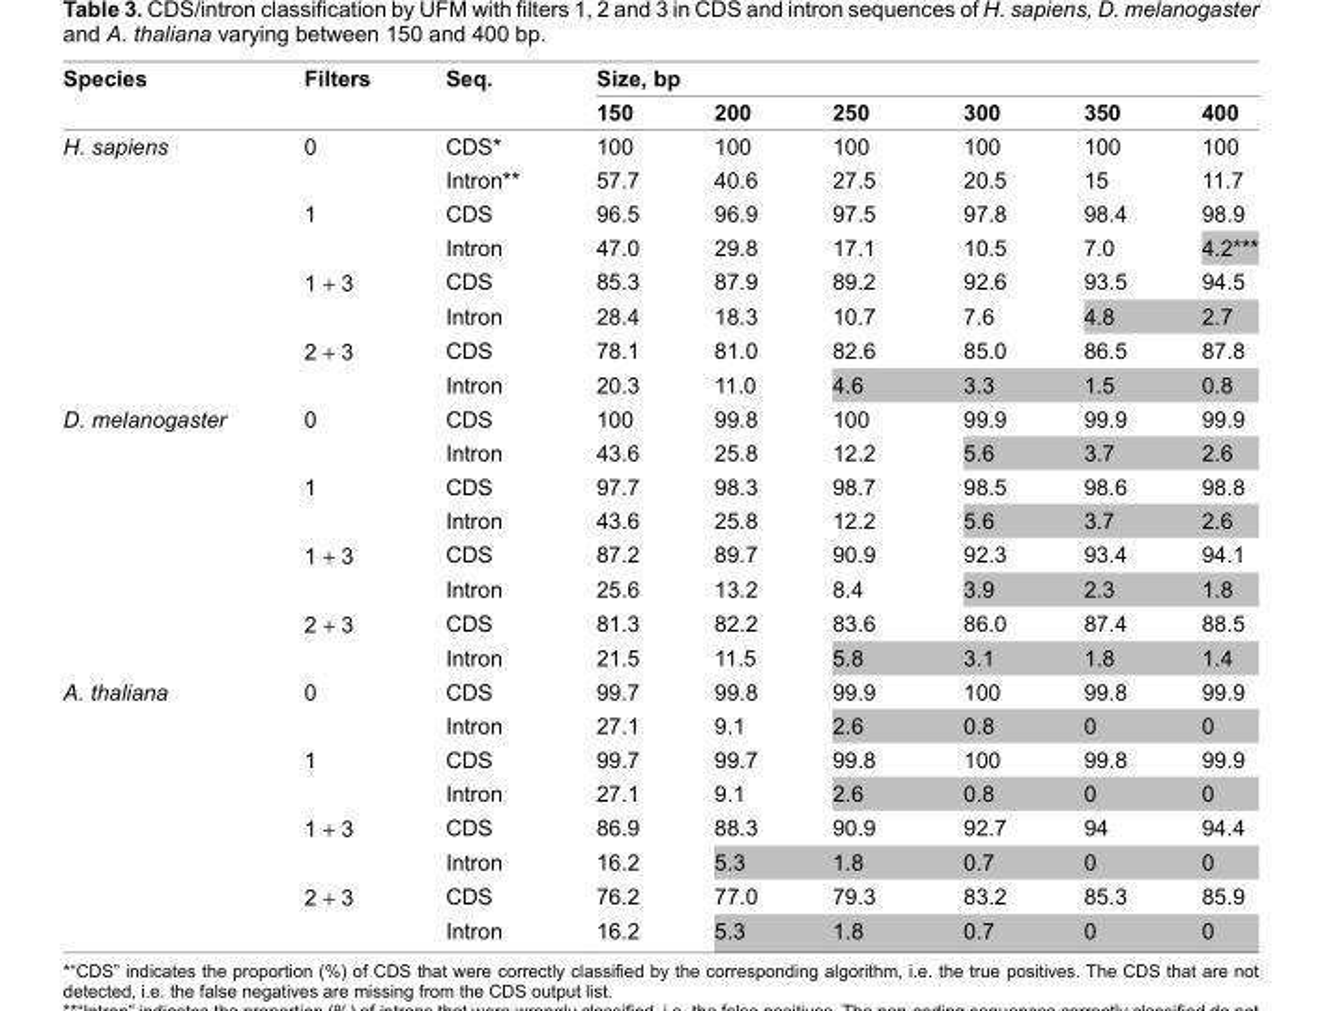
<table><thead><tr><td rowspan="2">species</td><td rowspan="2">Filters</td><td rowspan="2">seq.</td><td colspan="6">size, bp</td></tr><tr><td>150</td><td>200</td><td>250</td><td>300</td><td>350</td><td>400</td></tr></thead><tbody><tr><td rowspan="8">H. sapiens</td><td>0</td><td>CDs*</td><td>100</td><td>100</td><td>100</td><td>100</td><td>100</td><td>100</td></tr><tr><td></td><td>Intron**</td><td>57.7</td><td>40.6</td><td>27.5</td><td>20.5</td><td>15</td><td>11.7</td></tr><tr><td>1</td><td>CDs</td><td>96.5</td><td>96.9</td><td>97.5</td><td>97.8</td><td>98.4</td><td>98.9</td></tr><tr><td></td><td>Intron</td><td>47.0</td><td>29.8</td><td>17.1</td><td>10.5</td><td>7.0</td><td>4.2***</td></tr><tr><td>1 + 3</td><td>CDs</td><td>85.3</td><td>87.9</td><td>89.2</td><td>92.6</td><td>93.5</td><td>94.5</td></tr><tr><td></td><td>Intron</td><td>28.4</td><td>18.3</td><td>10.7</td><td>7.6</td><td>4.8</td><td>2.7</td></tr><tr><td>2 + 3</td><td>CDs</td><td>78.1</td><td>81.0</td><td>82.6</td><td>85.0</td><td>86.5</td><td>87.8</td></tr><tr><td></td><td>Intron</td><td>20.3</td><td>11.0</td><td>4.6</td><td>3.3</td><td>1.5</td><td>0.8</td></tr><tr><td rowspan="8">D. melanogaster</td><td>0</td><td>CDs</td><td>100</td><td>99.8</td><td>100</td><td>99.9</td><td>99.9</td><td>99.9</td></tr><tr><td></td><td>Intron</td><td>43.6</td><td>25.8</td><td>12.2</td><td>5.6</td><td>3.7</td><td>2.6</td></tr><tr><td>1</td><td>CDs</td><td>97.7</td><td>98.3</td><td>98.7</td><td>98.5</td><td>98.6</td><td>98.8</td></tr><tr><td></td><td>Intron</td><td>43.6</td><td>25.8</td><td>12.2</td><td>5.6</td><td>3.7</td><td>2.6</td></tr><tr><td>1 + 3</td><td>CDs</td><td>87.2</td><td>89.7</td><td>90.9</td><td>92.3</td><td>93.4</td><td>94.1</td></tr><tr><td></td><td>Intron</td><td>25.6</td><td>13.2</td><td>8.4</td><td>3.9</td><td>2.3</td><td>1.8</td></tr><tr><td>2 + 3</td><td>CDs</td><td>81.3</td><td>82.2</td><td>83.6</td><td>86.0</td><td>87.4</td><td>88.5</td></tr><tr><td></td><td>Intron</td><td>21.5</td><td>11.5</td><td>5.8</td><td>3.1</td><td>1.8</td><td>1.4</td></tr><tr><td rowspan="8">A. thaliana</td><td>0</td><td>CDs</td><td>99.7</td><td>99.8</td><td>99.9</td><td>100</td><td>99.8</td><td>99.9</td></tr><tr><td></td><td>Intron</td><td>27.1</td><td>9.1</td><td>2.6</td><td>0.8</td><td>0</td><td>0</td></tr><tr><td>1</td><td>CDs</td><td>99.7</td><td>99.7</td><td>99.8</td><td>100</td><td>99.8</td><td>99.9</td></tr><tr><td></td><td>Intron</td><td>27.1</td><td>9.1</td><td>2.6</td><td>0.8</td><td>0</td><td>0</td></tr><tr><td>1 + 3</td><td>CDs</td><td>86.9</td><td>88.3</td><td>90.9</td><td>92.7</td><td>94</td><td>94.4</td></tr><tr><td></td><td>Intron</td><td>16.2</td><td>5.3</td><td>1.8</td><td>0.7</td><td>0</td><td>0</td></tr><tr><td>2 + 3</td><td>CDs</td><td>76.2</td><td>77.0</td><td>79.3</td><td>83.2</td><td>85.3</td><td>85.9</td></tr><tr><td></td><td>Intron</td><td>16.2</td><td>5.3</td><td>1.8</td><td>0.7</td><td>0</td><td>0</td></tr></tbody></table>